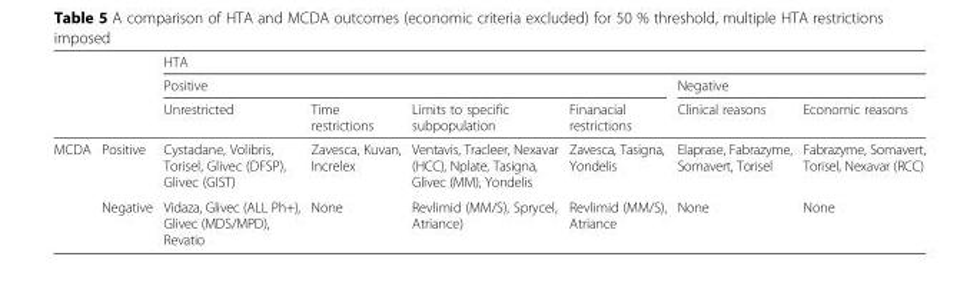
<table><thead><tr><td rowspan="3"></td><td rowspan="3"></td><td colspan="6">HTA</td></tr><tr><td colspan="4">Positive</td><td colspan="2">Negative</td></tr><tr><td>Unrestricted</td><td>Time restrictions</td><td>Limits to specific subpopulation</td><td>Finanacial restrictions</td><td>Clinical reasons</td><td>Economic reasons</td></tr></thead><tbody><tr><td rowspan="2">MCDA</td><td>Positive</td><td>Cystadane, Volibris, Torisel, Glivec (DFSP), Glivec (GIST)</td><td>Zavesca, Kuvan, Increlex</td><td>Ventavis, Tracleer, Nexavar (HCC), Nplate, Tasigna, Glivec (MM), Yondelis</td><td>Zavesca, Tasigna, Yondelis</td><td>Elaprase, Fabrazyme, Somavert, Torisel</td><td>Fabrazyme, Somavert, Torisel, Nexavar (RCC)</td></tr><tr><td>Negative</td><td>Vidaza, Glivec (ALL Ph+), Glivec (MDS/MPD), Revatio</td><td>None</td><td>Revlimid (MM/S), Sprycel, Atriance)</td><td>Revlimid (MM/S), Atriance</td><td>None</td><td>None</td></tr></tbody></table>